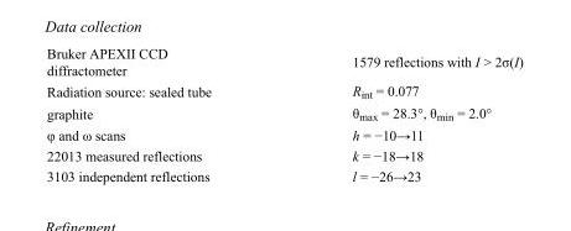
<table><tbody><tr><td>Bruker APEXII CCD diffractometer</td><td>1579 reflections with I &gt; 2σ(I)</td></tr><tr><td>Radiation source: sealed tube</td><td>R<sub>int</sub> = 0.077</td></tr><tr><td>graphite</td><td>θ<sub>max</sub> = 28.3°, θ<sub>min</sub> = 2.0°</td></tr><tr><td>φ and ω scans</td><td>h = −10→11</td></tr><tr><td>22013 measured reflections</td><td>k = −18→18</td></tr><tr><td>3103 independent reflections</td><td>l = −26→23</td></tr></tbody></table>